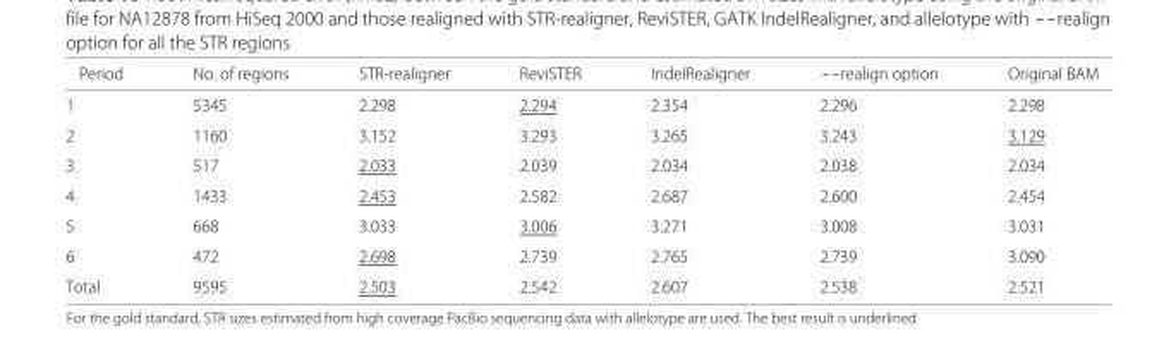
<table><thead><tr><td>Period</td><td>No. of regions</td><td>STR-realigner</td><td>ReviSTER</td><td>IndelRealigner</td><td>--realign option</td><td>Original BAM</td></tr></thead><tbody><tr><td>1</td><td>5345</td><td>2.298</td><td>2.294</td><td>2.354</td><td>2.296</td><td>2.298</td></tr><tr><td>2</td><td>1160</td><td>3.152</td><td>3.293</td><td>3.265</td><td>3.243</td><td>3.129</td></tr><tr><td>3</td><td>517</td><td>2.033</td><td>2.039</td><td>2.034</td><td>2.038</td><td>2.034</td></tr><tr><td>4</td><td>1433</td><td>2.453</td><td>2.582</td><td>2.687</td><td>2.600</td><td>2.454</td></tr><tr><td>5</td><td>668</td><td>3.033</td><td>3.006</td><td>3.271</td><td>3.008</td><td>3.031</td></tr><tr><td>6</td><td>472</td><td>2.698</td><td>2.739</td><td>2.765</td><td>2.739</td><td>3.090</td></tr><tr><td>Total</td><td>9595</td><td>2.503</td><td>2.542</td><td>2.607</td><td>2.538</td><td>2.521</td></tr></tbody></table>